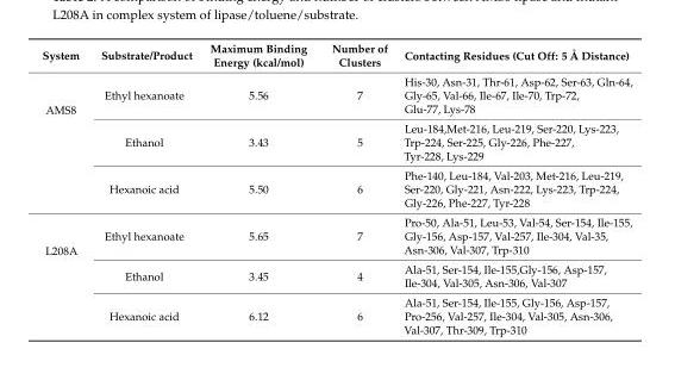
<table><thead><tr><td>System</td><td>Substrate/Product</td><td>Maximum Binding Energy (kcal/mol)</td><td>Number of Clusters</td><td>Contacting Residues (Cut Off: 5 Å Distance)</td></tr></thead><tbody><tr><td rowspan="3">AMS8</td><td>Ethyl hexanoate</td><td>5.56</td><td>7</td><td>His-30, Asn-31, Thr-61, Asp-62, Ser-63, Gln-64, Gly-65, Val-66, Ile-67, Ile-70, Trp-72, Glu-77, Lys-78</td></tr><tr><td>Ethanol</td><td>3.43</td><td>5</td><td>Leu-184,Met-216, Leu-219, Ser-220, Lys-223, Trp-224, Ser-225, Gly-226, Phe-227, Tyr-228, Lys-229</td></tr><tr><td>Hexanoic acid</td><td>5.50</td><td>6</td><td>Phe-140, Leu-184, Val-203, Met-216, Leu-219, Ser-220, Gly-221, Asn-222, Lys-223, Trp-224, Gly-226, Phe-227, Tyr-228</td></tr><tr><td rowspan="3">L208A</td><td>Ethyl hexanoate</td><td>5.65</td><td>7</td><td>Pro-50, Ala-51, Leu-53, Val-54, Ser-154, Ile-155, Gly-156, Asp-157, Val-257, Ile-304, Val-35, Asn-306, Val-307, Trp-310</td></tr><tr><td>Ethanol</td><td>3.45</td><td>4</td><td>Ala-51, Ser-154, Ile-155,Gly-156, Asp-157, Ile-304, Val-305, Asn-306, Val-307</td></tr><tr><td>Hexanoic acid</td><td>6.12</td><td>6</td><td>Ala-51, Ser-154, Ile-155, Gly-156, Asp-157, Pro-256, Val-257, Ile-304, Val-305, Asn-306, Val-307, Thr-309, Trp-310</td></tr></tbody></table>